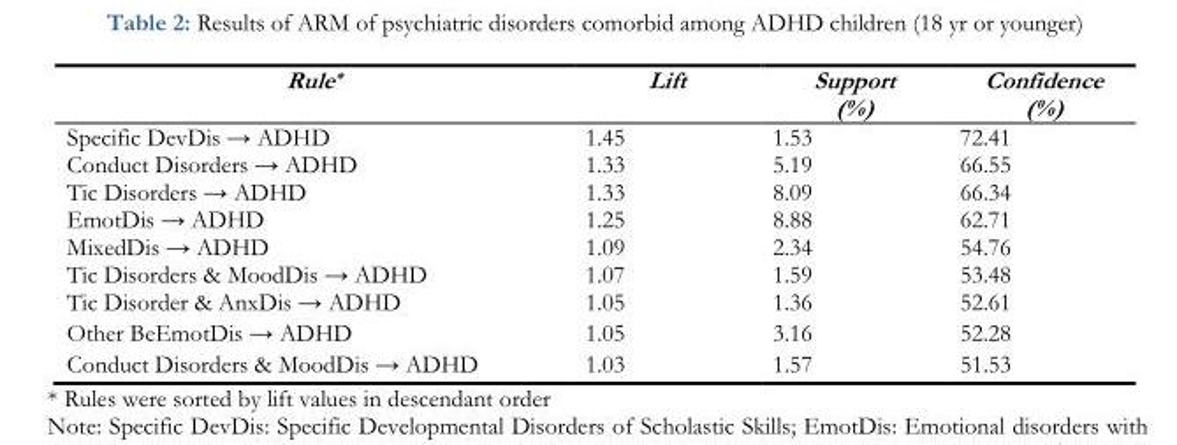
<table><thead><tr><td>Rule*</td><td>Lift</td><td>Support (%)</td><td>Confidence (%)</td></tr></thead><tbody><tr><td>Specific DevDis → ADHD</td><td>1.45</td><td>1.53</td><td>72.41</td></tr><tr><td>Conduct Disorders → ADHD</td><td>1.33</td><td>5.19</td><td>66.55</td></tr><tr><td>Tic Disorders → ADHD</td><td>1.33</td><td>8.09</td><td>66.34</td></tr><tr><td>EmotDis → ADHD</td><td>1.25</td><td>8.88</td><td>62.71</td></tr><tr><td>MixedDis → ADHD</td><td>1.09</td><td>2.34</td><td>54.76</td></tr><tr><td>Tic Disorders &amp; MoodDis → ADHD</td><td>1.07</td><td>1.59</td><td>53.48</td></tr><tr><td>Tic Disorder &amp; AnxDis → ADHD</td><td>1.05</td><td>1.36</td><td>52.61</td></tr><tr><td>Other BeEmotDis → ADHD</td><td>1.05</td><td>3.16</td><td>52.28</td></tr><tr><td>Conduct Disorders &amp; MoodDis → ADHD</td><td>1.03</td><td>1.57</td><td>51.53</td></tr></tbody></table>